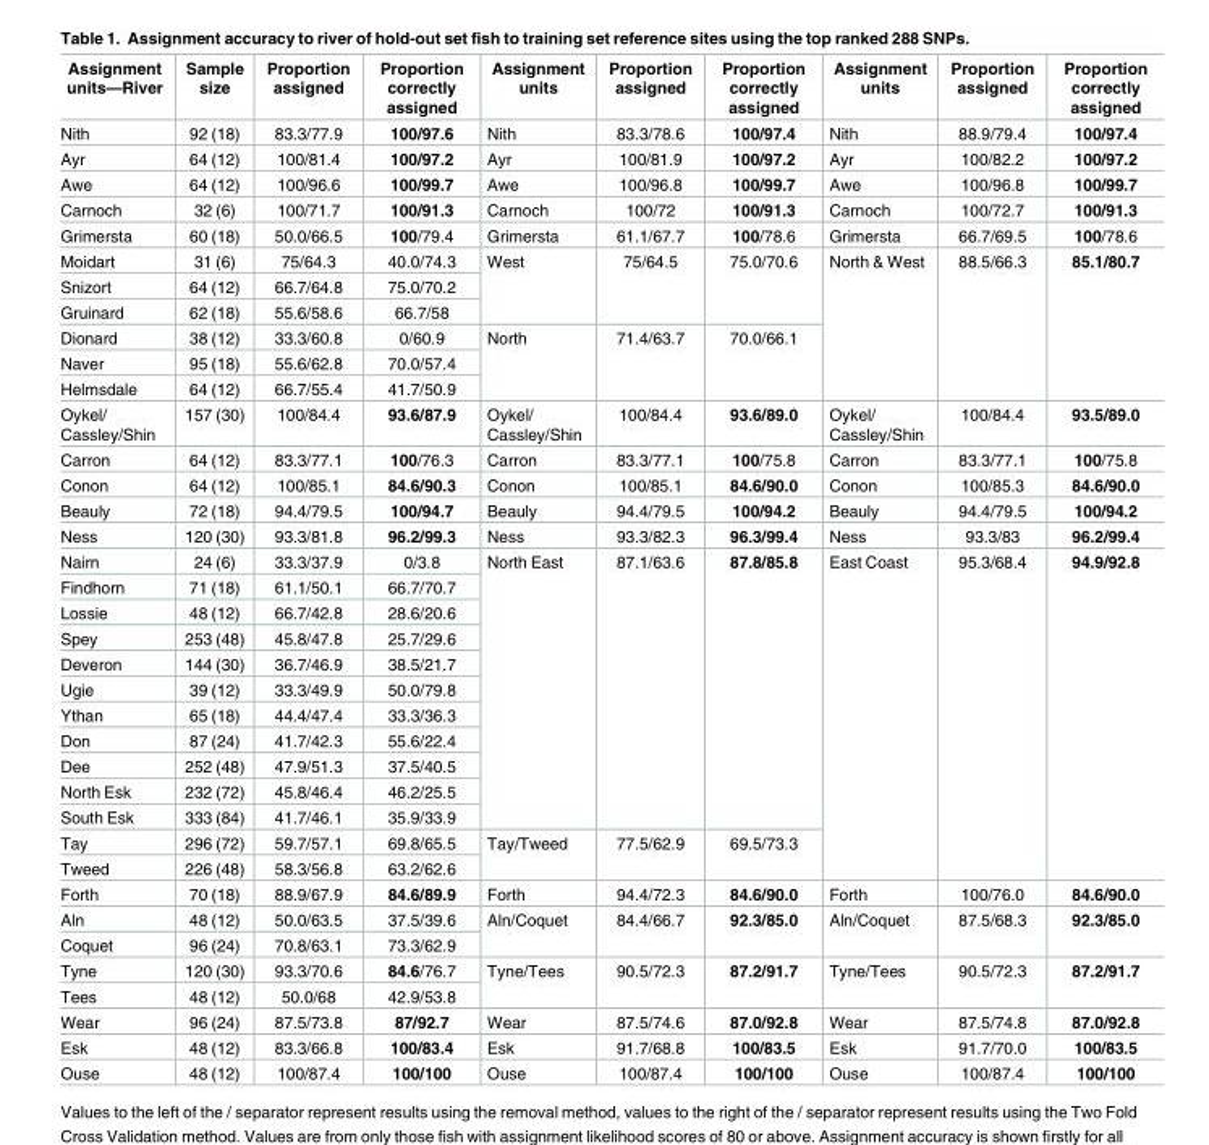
<table><thead><tr><td>Assignment units—River</td><td>Sample size</td><td>Proportion assigned</td><td>Proportion correctly assigned</td><td>Assignment units</td><td>Proportion assigned</td><td>Proportion correctly assigned</td><td>Assignment units</td><td>Proportion assigned</td><td>Proportion correctly assigned</td></tr></thead><tbody><tr><td>Nith</td><td>92 (18)</td><td>83.3/77.9</td><td>100/97.6</td><td>Nith</td><td>83.3/78.6</td><td>100/97.4</td><td>Nith</td><td>88.9/79.4</td><td>100/97.4</td></tr><tr><td>Ayr</td><td>64 (12)</td><td>100/81.4</td><td>100/97.2</td><td>Ayr</td><td>100/81.9</td><td>100/97.2</td><td>Ayr</td><td>100/82.2</td><td>100/97.2</td></tr><tr><td>Awe</td><td>64 (12)</td><td>100/96.6</td><td>100/99.7</td><td>Awe</td><td>100/96.8</td><td>100/99.7</td><td>Awe</td><td>100/96.8</td><td>100/99.7</td></tr><tr><td>Carnoch</td><td>32 (6)</td><td>100/71.7</td><td>100/91.3</td><td>Carnoch</td><td>100/72</td><td>100/91.3</td><td>Carnoch</td><td>100/72.7</td><td>100/91.3</td></tr><tr><td>Grimersta</td><td>60 (18)</td><td>50.0/66.5</td><td>100/79.4</td><td>Grimersta</td><td>61.1/67.7</td><td>100/78.6</td><td>Grimersta</td><td>66.7/69.5</td><td>100/78.6</td></tr><tr><td>Moidart</td><td>31 (6)</td><td>75/64.3</td><td>40.0/74.3</td><td rowspan="3">West</td><td rowspan="3">75/64.5</td><td rowspan="3">75.0/70.6</td><td rowspan="6">North &amp; West</td><td rowspan="6">88.5/66.3</td><td rowspan="6">85.1/80.7</td></tr><tr><td>Snizort</td><td>64 (12)</td><td>66.7/64.8</td><td>75.0/70.2</td></tr><tr><td>Gruinard</td><td>62 (18)</td><td>55.6/58.6</td><td>66.7/58</td></tr><tr><td>Dionard</td><td>38 (12)</td><td>33.3/60.8</td><td>0/60.9</td><td rowspan="3">North</td><td rowspan="3">71.4/63.7</td><td rowspan="3">70.0/66.1</td></tr><tr><td>Naver</td><td>95 (18)</td><td>55.6/62.8</td><td>70.0/57.4</td></tr><tr><td>Helmsdale</td><td>64 (12)</td><td>66.7/55.4</td><td>41.7/50.9</td></tr><tr><td>Oykel/ Cassley/Shin</td><td>157 (30)</td><td>100/84.4</td><td>93.6/87.9</td><td>Oykel/ Cassley/Shin</td><td>100/84.4</td><td>93.6/89.0</td><td>Oykel/ Cassley/Shin</td><td>100/84.4</td><td>93.5/89.0</td></tr><tr><td>Carron</td><td>64 (12)</td><td>83.3/77.1</td><td>100/76.3</td><td>Carron</td><td>83.3/77.1</td><td>100/75.8</td><td>Carron</td><td>83.3/77.1</td><td>100/75.8</td></tr><tr><td>Conon</td><td>64 (12)</td><td>100/85.1</td><td>84.6/90.3</td><td>Conon</td><td>100/85.1</td><td>84.6/90.0</td><td>Conon</td><td>100/85.3</td><td>84.6/90.0</td></tr><tr><td>Beauly</td><td>72 (18)</td><td>94.4/79.5</td><td>100/94.7</td><td>Beauly</td><td>94.4/79.5</td><td>100/94.2</td><td>Beauly</td><td>94.4/79.5</td><td>100/94.2</td></tr><tr><td>Ness</td><td>120 (30)</td><td>93.3/81.8</td><td>96.2/99.3</td><td>Ness</td><td>93.3/82.3</td><td>96.3/99.4</td><td>Ness</td><td>93.3/83</td><td>96.2/99.4</td></tr><tr><td>Nairn</td><td>24 (6)</td><td>33.3/37.9</td><td>0/3.8</td><td rowspan="11">North East</td><td rowspan="11">87.1/63.6</td><td rowspan="11">87.8/85.8</td><td rowspan="13">East Coast</td><td rowspan="13">95.3/68.4</td><td rowspan="13">94.9/92.8</td></tr><tr><td>Findhorn</td><td>71 (18)</td><td>61.1/50.1</td><td>66.7/70.7</td></tr><tr><td>Lossie</td><td>48 (12)</td><td>66.7/42.8</td><td>28.6/20.6</td></tr><tr><td>Spey</td><td>253 (48)</td><td>45.8/47.8</td><td>25.7/29.6</td></tr><tr><td>Deveron</td><td>144 (30)</td><td>36.7/46.9</td><td>38.5/21.7</td></tr><tr><td>Ugie</td><td>39 (12)</td><td>33.3/49.9</td><td>50.0/79.8</td></tr><tr><td>Ythan</td><td>65 (18)</td><td>44.4/47.4</td><td>33.3/36.3</td></tr><tr><td>Don</td><td>87 (24)</td><td>41.7/42.3</td><td>55.6/22.4</td></tr><tr><td>Dee</td><td>252 (48)</td><td>47.9/51.3</td><td>37.5/40.5</td></tr><tr><td>North Esk</td><td>232 (72)</td><td>45.8/46.4</td><td>46.2/25.5</td></tr><tr><td>South Esk</td><td>333 (84)</td><td>41.7/46.1</td><td>35.9/33.9</td></tr><tr><td>Tay</td><td>296 (72)</td><td>59.7/57.1</td><td>69.8/65.5</td><td rowspan="2">Tay/Tweed</td><td rowspan="2">77.5/62.9</td><td rowspan="2">69.5/73.3</td></tr><tr><td>Tweed</td><td>226 (48)</td><td>58.3/56.8</td><td>63.2/62.6</td></tr><tr><td>Forth</td><td>70 (18)</td><td>88.9/67.9</td><td>84.6/89.9</td><td>Forth</td><td>94.4/72.3</td><td>84.6/90.0</td><td>Forth</td><td>100/76.0</td><td>84.6/90.0</td></tr><tr><td>Aln</td><td>48 (12)</td><td>50.0/63.5</td><td>37.5/39.6</td><td rowspan="2">Aln/Coquet</td><td rowspan="2">84.4/66.7</td><td rowspan="2">92.3/85.0</td><td rowspan="2">Aln/Coquet</td><td rowspan="2">87.5/68.3</td><td rowspan="2">92.3/85.0</td></tr><tr><td>Coquet</td><td>96 (24)</td><td>70.8/63.1</td><td>73.3/62.9</td></tr><tr><td>Tyne</td><td>120 (30)</td><td>93.3/70.6</td><td>84.6/76.7</td><td rowspan="2">Tyne/Tees</td><td rowspan="2">90.5/72.3</td><td rowspan="2">87.2/91.7</td><td rowspan="2">Tyne/Tees</td><td rowspan="2">90.5/72.3</td><td rowspan="2">87.2/91.7</td></tr><tr><td>Tees</td><td>48 (12)</td><td>50.0/68</td><td>42.9/53.8</td></tr><tr><td>Wear</td><td>96 (24)</td><td>87.5/73.8</td><td>87/92.7</td><td>Wear</td><td>87.5/74.6</td><td>87.0/92.8</td><td>Wear</td><td>87.5/74.8</td><td>87.0/92.8</td></tr><tr><td>Esk</td><td>48 (12)</td><td>83.3/66.8</td><td>100/83.4</td><td>Esk</td><td>91.7/68.8</td><td>100/83.5</td><td>Esk</td><td>91.7/70.0</td><td>100/83.5</td></tr><tr><td>Ouse</td><td>48 (12)</td><td>100/87.4</td><td>100/100</td><td>Ouse</td><td>100/87.4</td><td>100/100</td><td>Ouse</td><td>100/87.4</td><td>100/100</td></tr></tbody></table>